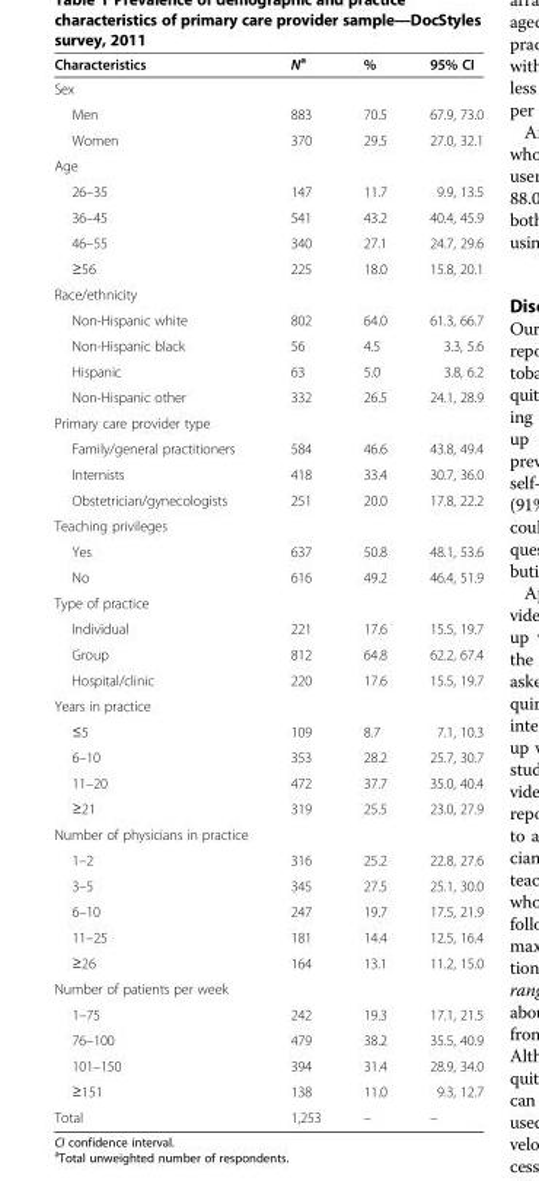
<table><thead><tr><td>Characteristics</td><td>N<sup>a</sup></td><td>%</td><td>95% CI</td></tr></thead><tbody><tr><td colspan="4">Sex</td></tr><tr><td>Men</td><td>883</td><td>70.5</td><td>67.9, 73.0</td></tr><tr><td>Women</td><td>370</td><td>29.5</td><td>27.0, 32.1</td></tr><tr><td colspan="4">Age</td></tr><tr><td>26–35</td><td>147</td><td>11.7</td><td>9.9, 13.5</td></tr><tr><td>36–45</td><td>541</td><td>43.2</td><td>40.4, 45.9</td></tr><tr><td>46–55</td><td>340</td><td>27.1</td><td>24.7, 29.6</td></tr><tr><td>≥56</td><td>225</td><td>18.0</td><td>15.8, 20.1</td></tr><tr><td colspan="4">Race/ethnicity</td></tr><tr><td>Non-Hispanic white</td><td>802</td><td>64.0</td><td>61.3, 66.7</td></tr><tr><td>Non-Hispanic black</td><td>56</td><td>4.5</td><td>3.3, 5.6</td></tr><tr><td>Hispanic</td><td>63</td><td>5.0</td><td>3.8, 6.2</td></tr><tr><td>Non-Hispanic other</td><td>332</td><td>26.5</td><td>24.1, 28.9</td></tr><tr><td colspan="4">Primary care provider type</td></tr><tr><td>Family/general practitioners</td><td>584</td><td>46.6</td><td>43.8, 49.4</td></tr><tr><td>Internists</td><td>418</td><td>33.4</td><td>30.7, 36.0</td></tr><tr><td>Obstetrician/gynecologists</td><td>251</td><td>20.0</td><td>17.8, 22.2</td></tr><tr><td colspan="4">Teaching privileges</td></tr><tr><td>Yes</td><td>637</td><td>50.8</td><td>48.1, 53.6</td></tr><tr><td>No</td><td>616</td><td>49.2</td><td>46.4, 51.9</td></tr><tr><td colspan="4">Type of practice</td></tr><tr><td>Individual</td><td>221</td><td>17.6</td><td>15.5, 19.7</td></tr><tr><td>Group</td><td>812</td><td>64.8</td><td>62.2, 67.4</td></tr><tr><td>Hospital/clinic</td><td>220</td><td>17.6</td><td>15.5, 19.7</td></tr><tr><td colspan="4">Years in practice</td></tr><tr><td>≤5</td><td>109</td><td>8.7</td><td>7.1, 10.3</td></tr><tr><td>6–10</td><td>353</td><td>28.2</td><td>25.7, 30.7</td></tr><tr><td>11–20</td><td>472</td><td>37.7</td><td>35.0, 40.4</td></tr><tr><td>≥21</td><td>319</td><td>25.5</td><td>23.0, 27.9</td></tr><tr><td colspan="4">Number of physicians in practice</td></tr><tr><td>1–2</td><td>316</td><td>25.2</td><td>22.8, 27.6</td></tr><tr><td>3–5</td><td>345</td><td>27.5</td><td>25.1, 30.0</td></tr><tr><td>6–10</td><td>247</td><td>19.7</td><td>17.5, 21.9</td></tr><tr><td>11–25</td><td>181</td><td>14.4</td><td>12.5, 16.4</td></tr><tr><td>≥26</td><td>164</td><td>13.1</td><td>11.2, 15.0</td></tr><tr><td colspan="4">Number of patients per week</td></tr><tr><td>1–75</td><td>242</td><td>19.3</td><td>17.1, 21.5</td></tr><tr><td>76–100</td><td>479</td><td>38.2</td><td>35.5, 40.9</td></tr><tr><td>101–150</td><td>394</td><td>31.4</td><td>28.9, 34.0</td></tr><tr><td>≥151</td><td>138</td><td>11.0</td><td>9.3, 12.7</td></tr><tr><td>Total</td><td>1,253</td><td>–</td><td>–</td></tr></tbody></table>